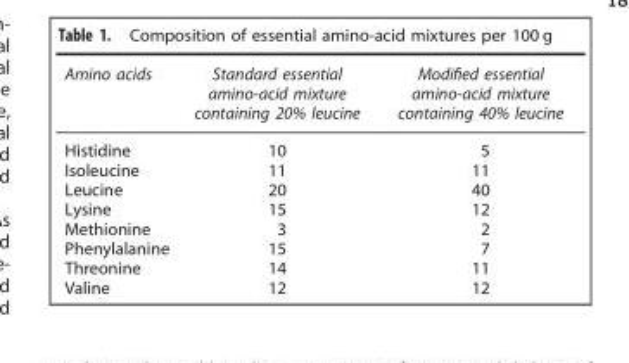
<table><thead><tr><td>Amino acids</td><td>Standard essential amino-acid mixture containing 20% leucine</td><td>Modified essential amino-acid mixture containing 40% leucine</td></tr></thead><tbody><tr><td>Histidine</td><td>10</td><td>5</td></tr><tr><td>Isoleucine</td><td>11</td><td>11</td></tr><tr><td>Leucine</td><td>20</td><td>40</td></tr><tr><td>Lysine</td><td>15</td><td>12</td></tr><tr><td>Methionine</td><td>3</td><td>2</td></tr><tr><td>Phenylalanine</td><td>15</td><td>7</td></tr><tr><td>Threonine</td><td>14</td><td>11</td></tr><tr><td>Valine</td><td>12</td><td>12</td></tr></tbody></table>